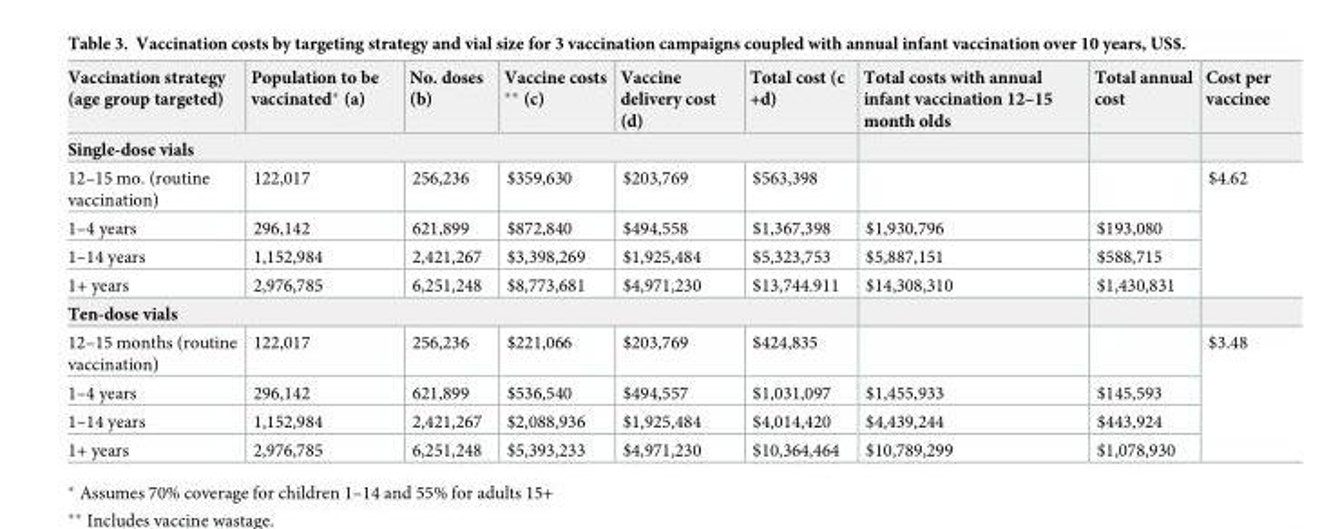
<table><thead><tr><td>Vaccination strategy (age group targeted)</td><td>Population to be vaccinated* (a)</td><td>No. doses (b)</td><td>Vaccine costs ** (c)</td><td>Vaccine delivery cost (d)</td><td>Total cost (c +d)</td><td>Total costs with annual infant vaccination 12–15 month olds</td><td>Total annual cost</td><td>Cost per vaccinee</td></tr></thead><tbody><tr><td colspan="9">Single-dose vials</td></tr><tr><td>12–15 mo. (routine vaccination)</td><td>122,017</td><td>256,236</td><td>$359,630</td><td>$203,769</td><td>$563,398</td><td></td><td></td><td rowspan="4">$4.62</td></tr><tr><td>1–4 years</td><td>296,142</td><td>621,899</td><td>$872,840</td><td>$494,558</td><td>$1,367,398</td><td>$1,930,796</td><td>$193,080</td></tr><tr><td>1–14 years</td><td>1,152,984</td><td>2,421,267</td><td>$3,398,269</td><td>$1,925,484</td><td>$5,323,753</td><td>$5,887,151</td><td>$588,715</td></tr><tr><td>1+ years</td><td>2,976,785</td><td>6,251,248</td><td>$8,773,681</td><td>$4,971,230</td><td>$13,744.911</td><td>$14,308,310</td><td>$1,430,831</td></tr><tr><td colspan="9">Ten-dose vials</td></tr><tr><td>12–15 months (routine vaccination)</td><td>122,017</td><td>256,236</td><td>$221,066</td><td>$203,769</td><td>$424,835</td><td></td><td></td><td rowspan="4">$3.48</td></tr><tr><td>1–4 years</td><td>296,142</td><td>621,899</td><td>$536,540</td><td>$494,557</td><td>$1,031,097</td><td>$1,455,933</td><td>$145,593</td></tr><tr><td>1–14 years</td><td>1,152,984</td><td>2,421,267</td><td>$2,088,936</td><td>$1,925,484</td><td>$4,014,420</td><td>$4,439,244</td><td>$443,924</td></tr><tr><td>1+ years</td><td>2,976,785</td><td>6,251,248</td><td>$5,393,233</td><td>$4,971,230</td><td>$10,364,464</td><td>$10,789,299</td><td>$1,078,930</td></tr></tbody></table>